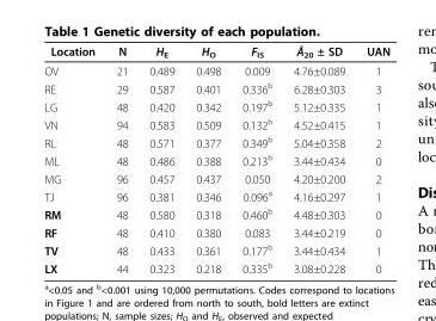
<table><thead><tr><td>Location</td><td>N</td><td>H<sub>E</sub></td><td>H<sub>O</sub></td><td>F<sub>IS</sub></td><td>Â<sub>20</sub> ± SD</td><td>UAN</td></tr></thead><tbody><tr><td>OV</td><td>21</td><td>0.489</td><td>0.498</td><td>0.009</td><td>4.76±0.089</td><td>1</td></tr><tr><td>RE</td><td>29</td><td>0.587</td><td>0.401</td><td>0.336<sup>b</sup></td><td>6.28±0.303</td><td>3</td></tr><tr><td>LG</td><td>48</td><td>0.420</td><td>0.342</td><td>0.197<sup>b</sup></td><td>5.12±0.335</td><td>1</td></tr><tr><td>VN</td><td>94</td><td>0.583</td><td>0.509</td><td>0.132<sup>b</sup></td><td>4.52±0.415</td><td>1</td></tr><tr><td>RL</td><td>48</td><td>0.571</td><td>0.377</td><td>0.349<sup>b</sup></td><td>5.04±0.358</td><td>2</td></tr><tr><td>ML</td><td>48</td><td>0.486</td><td>0.388</td><td>0.213<sup>b</sup></td><td>3.44±0.434</td><td>0</td></tr><tr><td>MG</td><td>96</td><td>0.457</td><td>0.437</td><td>0.050</td><td>4.20±0.200</td><td>2</td></tr><tr><td>TJ</td><td>96</td><td>0.381</td><td>0.346</td><td>0.096<sup>a</sup></td><td>4.16±0.297</td><td>1</td></tr><tr><td>RM</td><td>48</td><td>0.580</td><td>0.318</td><td>0.460<sup>b</sup></td><td>4.48±0.303</td><td>0</td></tr><tr><td>RF</td><td>48</td><td>0.410</td><td>0.380</td><td>0.083</td><td>3.44±0.219</td><td>0</td></tr><tr><td>TV</td><td>48</td><td>0.433</td><td>0.361</td><td>0.177<sup>b</sup></td><td>3.44±0.434</td><td>1</td></tr><tr><td>LX</td><td>44</td><td>0.323</td><td>0.218</td><td>0.335<sup>b</sup></td><td>3.08±0.228</td><td>0</td></tr></tbody></table>